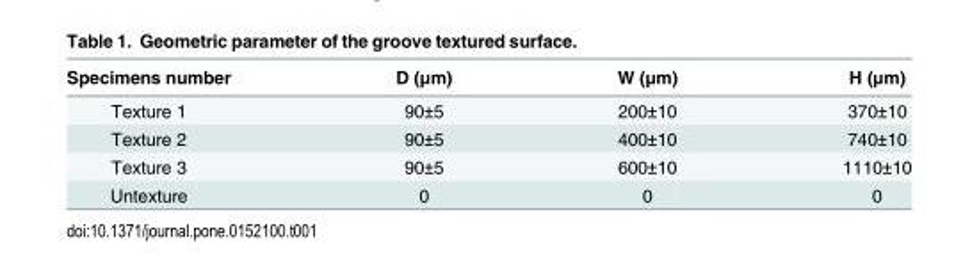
<table><thead><tr><td>Specimens number</td><td>D (μm)</td><td>W (μm)</td><td>H (μm)</td></tr></thead><tbody><tr><td>Texture 1</td><td>90±5</td><td>200±10</td><td>370±10</td></tr><tr><td>Texture 2</td><td>90±5</td><td>400±10</td><td>740±10</td></tr><tr><td>Texture 3</td><td>90±5</td><td>600±10</td><td>1110±10</td></tr><tr><td>Untexture</td><td>0</td><td>0</td><td>0</td></tr></tbody></table>